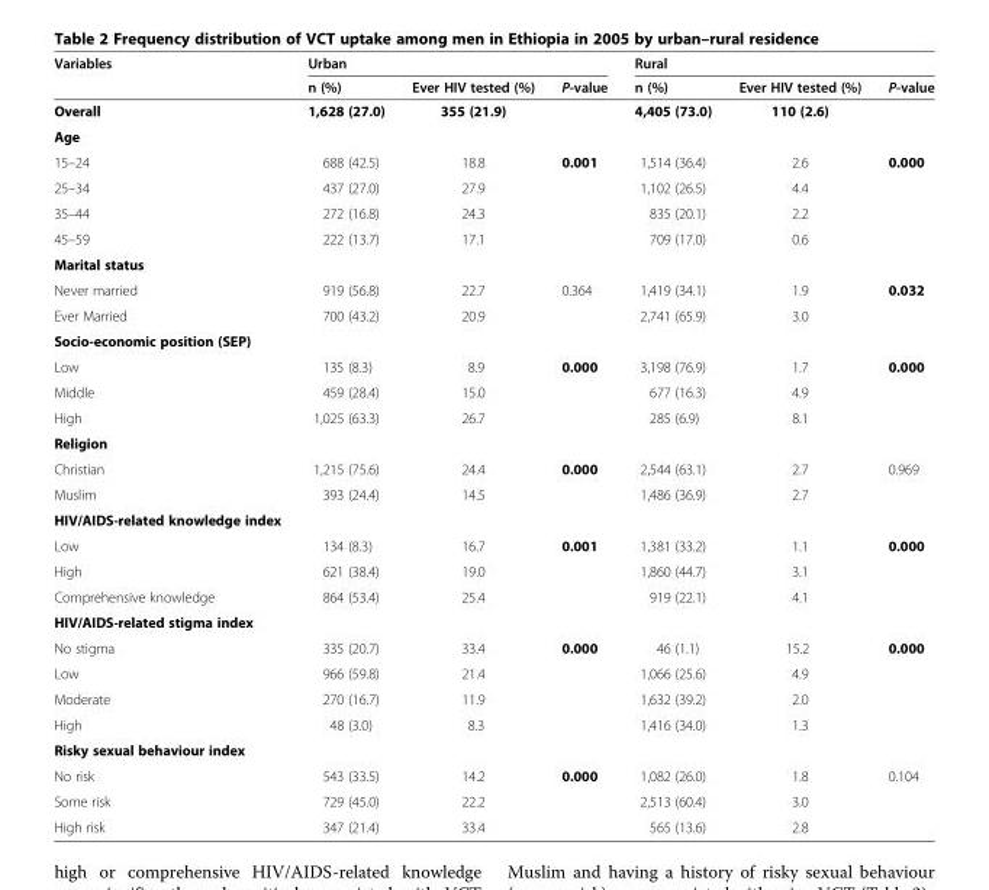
<table><thead><tr><td rowspan="2">Variables</td><td colspan="3">Urban</td><td colspan="3">Rural</td></tr><tr><td>n (%)</td><td>Ever HIV tested (%)</td><td>P-value</td><td>n (%)</td><td>Ever HIV tested (%)</td><td>P-value</td></tr></thead><tbody><tr><td>Overall</td><td>1,628 (27.0)</td><td>355 (21.9)</td><td></td><td>4,405 (73.0)</td><td>110 (2.6)</td><td></td></tr><tr><td colspan="7">Age</td></tr><tr><td>15–24</td><td>688 (42.5)</td><td>18.8</td><td>0.001</td><td>1,514 (36.4)</td><td>2.6</td><td>0.000</td></tr><tr><td>25–34</td><td>437 (27.0)</td><td>27.9</td><td rowspan="3"></td><td>1,102 (26.5)</td><td>4.4</td><td rowspan="3"></td></tr><tr><td>35–44</td><td>272 (16.8)</td><td>24.3</td><td>835 (20.1)</td><td>2.2</td></tr><tr><td>45–59</td><td>222 (13.7)</td><td>17.1</td><td>709 (17.0)</td><td>0.6</td></tr><tr><td colspan="7">Marital status</td></tr><tr><td>Never married</td><td>919 (56.8)</td><td>22.7</td><td>0.364</td><td>1,419 (34.1)</td><td>1.9</td><td>0.032</td></tr><tr><td>Ever Married</td><td>700 (43.2)</td><td>20.9</td><td></td><td>2,741 (65.9)</td><td>3.0</td><td></td></tr><tr><td colspan="7">Socio-economic position (SEP)</td></tr><tr><td>Low</td><td>135 (8.3)</td><td>8.9</td><td>0.000</td><td>3,198 (76.9)</td><td>1.7</td><td>0.000</td></tr><tr><td>Middle</td><td>459 (28.4)</td><td>15.0</td><td rowspan="2"></td><td>677 (16.3)</td><td>4.9</td><td rowspan="2"></td></tr><tr><td>High</td><td>1,025 (63.3)</td><td>26.7</td><td>285 (6.9)</td><td>8.1</td></tr><tr><td colspan="7">Religion</td></tr><tr><td>Christian</td><td>1,215 (75.6)</td><td>24.4</td><td>0.000</td><td>2,544 (63.1)</td><td>2.7</td><td>0.969</td></tr><tr><td>Muslim</td><td>393 (24.4)</td><td>14.5</td><td></td><td>1,486 (36.9)</td><td>2.7</td><td></td></tr><tr><td colspan="7">HIV/AIDS-related knowledge index</td></tr><tr><td>Low</td><td>134 (8.3)</td><td>16.7</td><td>0.001</td><td>1,381 (33.2)</td><td>1.1</td><td>0.000</td></tr><tr><td>High</td><td>621 (38.4)</td><td>19.0</td><td rowspan="2"></td><td>1,860 (44.7)</td><td>3.1</td><td rowspan="2"></td></tr><tr><td>Comprehensive knowledge</td><td>864 (53.4)</td><td>25.4</td><td>919 (22.1)</td><td>4.1</td></tr><tr><td colspan="7">HIV/AIDS-related stigma index</td></tr><tr><td>No stigma</td><td>335 (20.7)</td><td>33.4</td><td>0.000</td><td>46 (1.1)</td><td>15.2</td><td>0.000</td></tr><tr><td>Low</td><td>966 (59.8)</td><td>21.4</td><td rowspan="3"></td><td>1,066 (25.6)</td><td>4.9</td><td rowspan="3"></td></tr><tr><td>Moderate</td><td>270 (16.7)</td><td>11.9</td><td>1,632 (39.2)</td><td>2.0</td></tr><tr><td>High</td><td>48 (3.0)</td><td>8.3</td><td>1,416 (34.0)</td><td>1.3</td></tr><tr><td colspan="7">Risky sexual behaviour index</td></tr><tr><td>No risk</td><td>543 (33.5)</td><td>14.2</td><td>0.000</td><td>1,082 (26.0)</td><td>1.8</td><td>0.104</td></tr><tr><td>Some risk</td><td>729 (45.0)</td><td>22.2</td><td rowspan="2"></td><td>2,513 (60.4)</td><td>3.0</td><td rowspan="2"></td></tr><tr><td>High risk</td><td>347 (21.4)</td><td>33.4</td><td>565 (13.6)</td><td>2.8</td></tr></tbody></table>